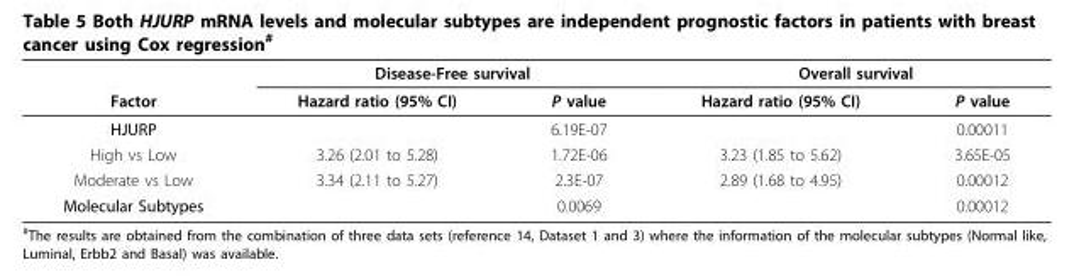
<table><thead><tr><td rowspan="2">Factor</td><td colspan="2">Disease-Free survival</td><td colspan="2">Overall survival</td></tr><tr><td>Hazard ratio (95% CI)</td><td>P value</td><td>Hazard ratio (95% CI)</td><td>P value</td></tr></thead><tbody><tr><td>HJURP</td><td></td><td>6.19E-07</td><td></td><td>0.00011</td></tr><tr><td>High vs Low</td><td>3.26 (2.01 to 5.28)</td><td>1.72E-06</td><td>3.23 (1.85 to 5.62)</td><td>3.65E-05</td></tr><tr><td>Moderate vs Low</td><td>3.34 (2.11 to 5.27)</td><td>2.3E-07</td><td>2.89 (1.68 to 4.95)</td><td>0.00012</td></tr><tr><td>Molecular Subtypes</td><td></td><td>0.0069</td><td></td><td>0.00012</td></tr></tbody></table>